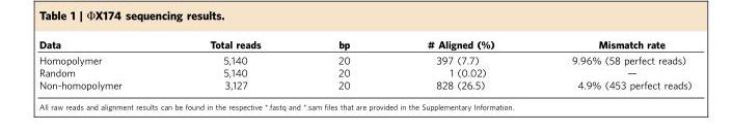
<table><thead><tr><td>Data</td><td>Total reads</td><td>bp</td><td># Aligned (%)</td><td>Mismatch rate</td></tr></thead><tbody><tr><td>Homopolymer</td><td>5,140</td><td>20</td><td>397 (7.7)</td><td>9.96% (58 perfect reads)</td></tr><tr><td>Random</td><td>5,140</td><td>20</td><td>1 (0.02)</td><td>—</td></tr><tr><td>Non-homopolymer</td><td>3,127</td><td>20</td><td>828 (26.5)</td><td>4.9% (453 perfect reads)</td></tr></tbody></table>